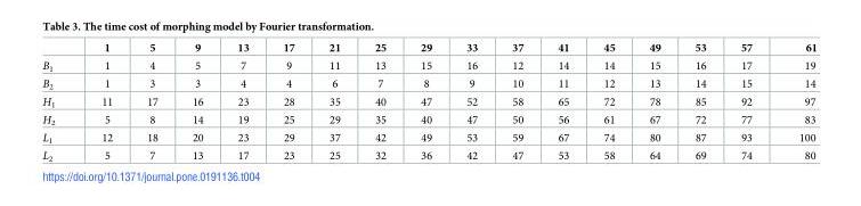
<table><thead><tr><td></td><td>1</td><td>5</td><td>9</td><td>13</td><td>17</td><td>21</td><td>25</td><td>29</td><td>33</td><td>37</td><td>41</td><td>45</td><td>49</td><td>53</td><td>57</td><td>61</td></tr></thead><tbody><tr><td>B<sub>1</sub></td><td>1</td><td>4</td><td>5</td><td>7</td><td>9</td><td>11</td><td>13</td><td>15</td><td>16</td><td>12</td><td>14</td><td>14</td><td>15</td><td>16</td><td>17</td><td>19</td></tr><tr><td>B<sub>2</sub></td><td>1</td><td>3</td><td>3</td><td>4</td><td>4</td><td>6</td><td>7</td><td>8</td><td>9</td><td>10</td><td>11</td><td>12</td><td>13</td><td>14</td><td>15</td><td>14</td></tr><tr><td>H<sub>1</sub></td><td>11</td><td>17</td><td>16</td><td>23</td><td>28</td><td>35</td><td>40</td><td>47</td><td>52</td><td>58</td><td>65</td><td>72</td><td>78</td><td>85</td><td>92</td><td>97</td></tr><tr><td>H<sub>2</sub></td><td>5</td><td>8</td><td>14</td><td>19</td><td>25</td><td>29</td><td>35</td><td>40</td><td>47</td><td>50</td><td>56</td><td>61</td><td>67</td><td>72</td><td>77</td><td>83</td></tr><tr><td>L<sub>1</sub></td><td>12</td><td>18</td><td>20</td><td>23</td><td>29</td><td>37</td><td>42</td><td>49</td><td>53</td><td>59</td><td>67</td><td>74</td><td>80</td><td>87</td><td>93</td><td>100</td></tr><tr><td>L<sub>2</sub></td><td>5</td><td>7</td><td>13</td><td>17</td><td>23</td><td>25</td><td>32</td><td>36</td><td>42</td><td>47</td><td>53</td><td>58</td><td>64</td><td>69</td><td>74</td><td>80</td></tr></tbody></table>